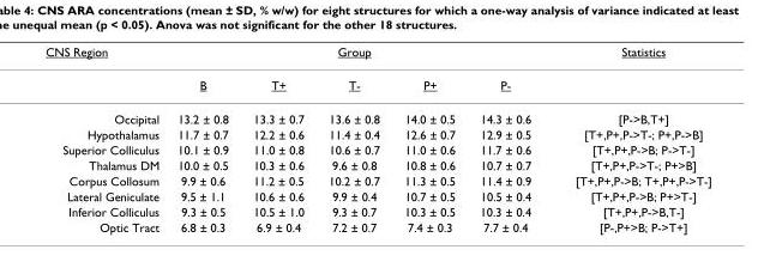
<table><thead><tr><td rowspan="2">CNS Region</td><td colspan="5">Group</td><td rowspan="2">Statistics</td></tr><tr><td>B</td><td>T+</td><td>T-</td><td>P+</td><td>P-</td></tr></thead><tbody><tr><td>Occipital</td><td>13.2 ± 0.8</td><td>13.3 ± 0.7</td><td>13.6 ± 0.8</td><td>14.0 ± 0.5</td><td>14.3 ± 0.6</td><td>[P-&gt;B,T+]</td></tr><tr><td>Hypothalamus</td><td>11.7 ± 0.7</td><td>12.2 ± 0.6</td><td>11.4 ± 0.4</td><td>12.6 ± 0.7</td><td>12.9 ± 0.5</td><td>[T+,P+,P-&gt;T-; P+,P-&gt;B]</td></tr><tr><td>Superior Colliculus</td><td>10.1 ± 0.9</td><td>11.0 ± 0.8</td><td>10.6 ± 0.7</td><td>11.0 ± 0.6</td><td>11.7 ± 0.6</td><td>[T+,P+,P-&gt;B; P-&gt;T-]</td></tr><tr><td>Thalamus DM</td><td>10.0 ± 0.5</td><td>10.3 ± 0.6</td><td>9.6 ± 0.8</td><td>10.8 ± 0.6</td><td>10.7 ± 0.7</td><td>[T+,P+,P-&gt;T-; P+&gt;B]</td></tr><tr><td>Corpus Collosum</td><td>9.9 ± 0.6</td><td>11.2 ± 0.5</td><td>10.2 ± 0.7</td><td>11.3 ± 0.5</td><td>11.4 ± 0.9</td><td>[T+,P+,P-&gt;B; T+,P+,P-&gt;T-]</td></tr><tr><td>Lateral Geniculate</td><td>9.5 ± 1.1</td><td>10.6 ± 0.6</td><td>9.9 ± 0.4</td><td>10.7 ± 0.5</td><td>10.5 ± 0.4</td><td>[T+,P+,P-&gt;B; P+&gt;T-]</td></tr><tr><td>Inferior Colliculus</td><td>9.3 ± 0.5</td><td>10.5 ± 1.0</td><td>9.3 ± 0.7</td><td>10.3 ± 0.5</td><td>10.3 ± 0.4</td><td>[T+,P+,P-&gt;B,T-]</td></tr><tr><td>Optic Tract</td><td>6.8 ± 0.3</td><td>6.9 ± 0.4</td><td>7.2 ± 0.7</td><td>7.4 ± 0.3</td><td>7.7 ± 0.4</td><td>[P-,P+&gt;B; P-&gt;T+]</td></tr></tbody></table>